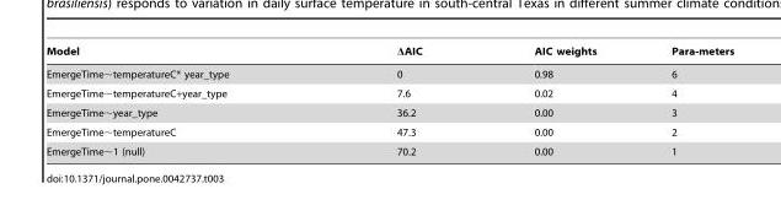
<table><thead><tr><td>Model</td><td>ΔAIC</td><td>AIC weights</td><td>Para-meters</td></tr></thead><tbody><tr><td>EmergeTime∼temperatureC* year_type</td><td>0</td><td>0.98</td><td>6</td></tr><tr><td>EmergeTime∼temperatureC+year_type</td><td>7.6</td><td>0.02</td><td>4</td></tr><tr><td>EmergeTime∼year_type</td><td>36.2</td><td>0.00</td><td>3</td></tr><tr><td>EmergeTime∼temperatureC</td><td>47.3</td><td>0.00</td><td>2</td></tr><tr><td>EmergeTime∼1 (null)</td><td>70.2</td><td>0.00</td><td>1</td></tr></tbody></table>